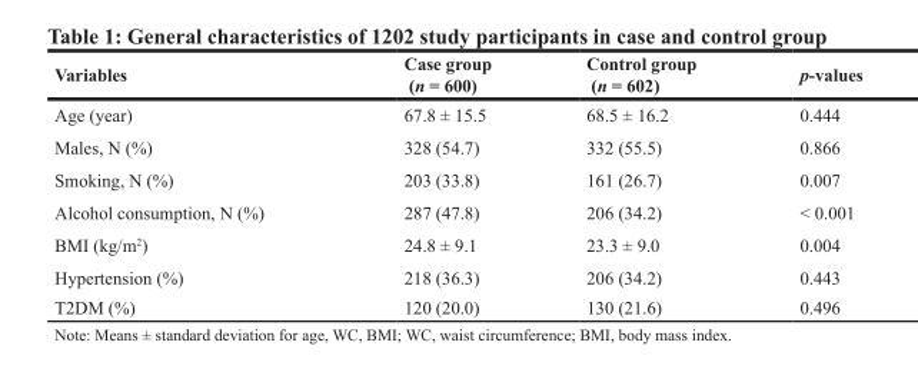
<table><thead><tr><td>Variables</td><td>Case group (n = 600)</td><td>Control group (n = 602)</td><td>p-values</td></tr></thead><tbody><tr><td>Age (year)</td><td>67.8 ± 15.5</td><td>68.5 ± 16.2</td><td>0.444</td></tr><tr><td>Males, N (%)</td><td>328 (54.7)</td><td>332 (55.5)</td><td>0.866</td></tr><tr><td>Smoking, N (%)</td><td>203 (33.8)</td><td>161 (26.7)</td><td>0.007</td></tr><tr><td>Alcohol consumption, N (%)</td><td>287 (47.8)</td><td>206 (34.2)</td><td>&lt; 0.001</td></tr><tr><td>BMI (kg/m<sup>2</sup>)</td><td>24.8 ± 9.1</td><td>23.3 ± 9.0</td><td>0.004</td></tr><tr><td>Hypertension (%)</td><td>218 (36.3)</td><td>206 (34.2)</td><td>0.443</td></tr><tr><td>T2DM (%)</td><td>120 (20.0)</td><td>130 (21.6)</td><td>0.496</td></tr></tbody></table>